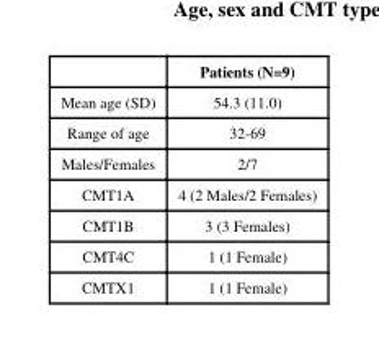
<table><thead><tr><td></td><td>Patients (N=9)</td></tr></thead><tbody><tr><td>Mean age (SD)</td><td>54.3 (11.0)</td></tr><tr><td>Range of age</td><td>32-69</td></tr><tr><td>Males/Females</td><td>2/7</td></tr><tr><td>CMT1A</td><td>4 (2 Males/2 Females)</td></tr><tr><td>CMT1B</td><td>3 (3 Females)</td></tr><tr><td>CMT4C</td><td>1 (1 Female)</td></tr><tr><td>CMTX1</td><td>1 (1 Female)</td></tr></tbody></table>